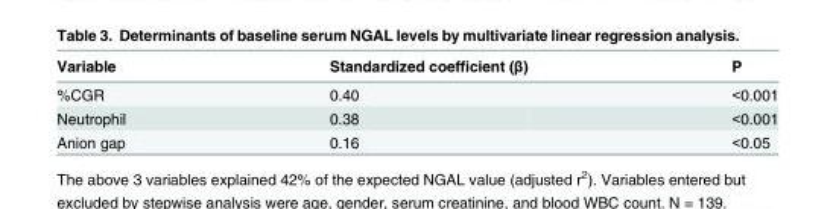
<table><thead><tr><td>Variable</td><td>Standardized coefficient (β)</td><td>P</td></tr></thead><tbody><tr><td>%CGR</td><td>0.40</td><td>&lt;0.001</td></tr><tr><td>Neutrophil</td><td>0.38</td><td>&lt;0.001</td></tr><tr><td>Anion gap</td><td>0.16</td><td>&lt;0.05</td></tr></tbody></table>